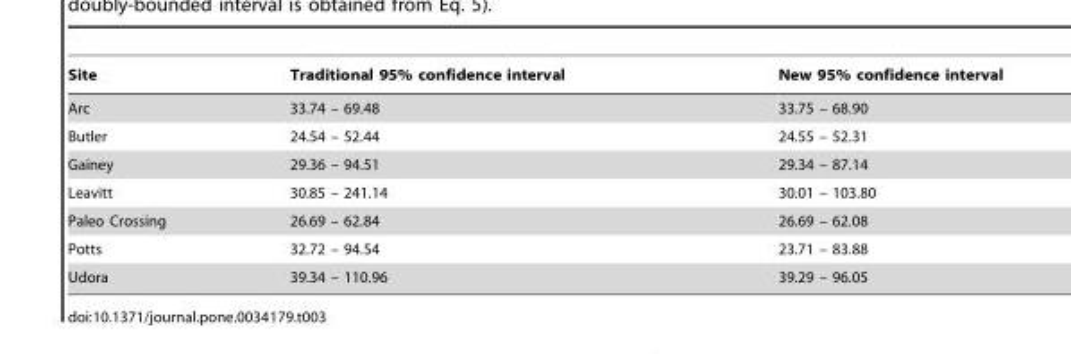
<table><thead><tr><td>Site</td><td>Traditional 95% confidence interval</td><td>New 95% confidence interval</td></tr></thead><tbody><tr><td>Arc</td><td>33.74 – 69.48</td><td>33.75 – 68.90</td></tr><tr><td>Butler</td><td>24.54 – 52.44</td><td>24.55 – 52.31</td></tr><tr><td>Gainey</td><td>29.36 – 94.51</td><td>29.34 – 87.14</td></tr><tr><td>Leavitt</td><td>30.85 – 241.14</td><td>30.01 – 103.80</td></tr><tr><td>Paleo Crossing</td><td>26.69 – 62.84</td><td>26.69 – 62.08</td></tr><tr><td>Potts</td><td>32.72 – 94.54</td><td>23.71 – 83.88</td></tr><tr><td>Udora</td><td>39.34 – 110.96</td><td>39.29 – 96.05</td></tr></tbody></table>